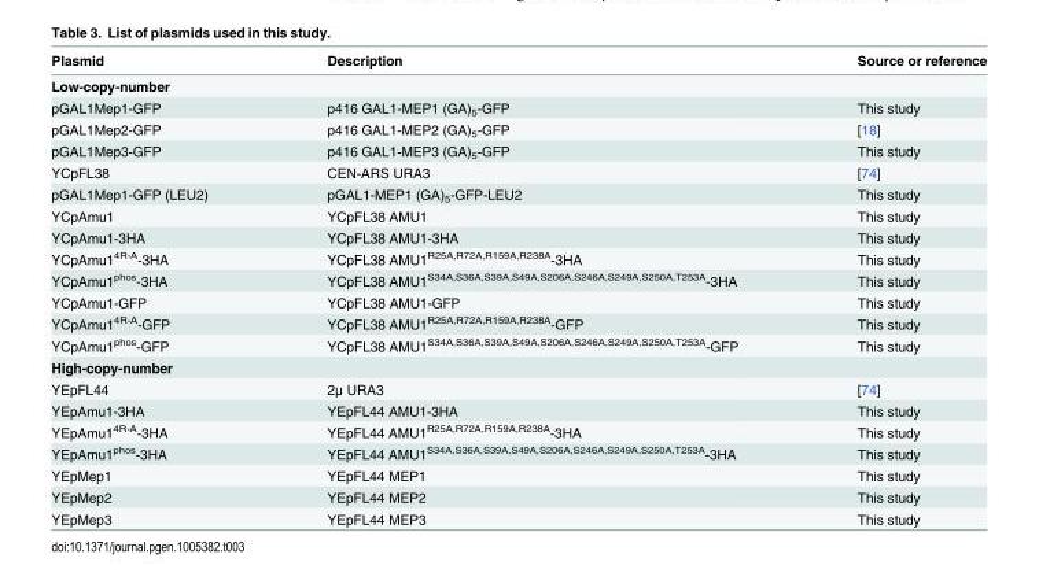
<table><thead><tr><td>Plasmid</td><td>Description</td><td>Source or reference</td></tr></thead><tbody><tr><td colspan="3">Low-copy-number</td></tr><tr><td>pGAL1Mep1-GFP</td><td>p416 GAL1-MEP1 (GA)<sub>5</sub>-GFP</td><td>This study</td></tr><tr><td>pGAL1Mep2-GFP</td><td>p416 GAL1-MEP2 (GA)<sub>5</sub>-GFP</td><td>[18]</td></tr><tr><td>pGAL1Mep3-GFP</td><td>p416 GAL1-MEP3 (GA)<sub>5</sub>-GFP</td><td>This study</td></tr><tr><td>YCpFL38</td><td>CEN-ARS URA3</td><td>[74]</td></tr><tr><td>pGAL1Mep1-GFP (LEU2)</td><td>pGAL1-MEP1 (GA)<sub>5</sub>-GFP-LEU2</td><td>This study</td></tr><tr><td>YCpAmu1</td><td>YCpFL38 AMU1</td><td>This study</td></tr><tr><td>YCpAmu1-3HA</td><td>YCpFL38 AMU1-3HA</td><td>This study</td></tr><tr><td>YCpAmu1<sup>4R-A</sup>-3HA</td><td>YCpFL38 AMU1<sup>R25A,R72A,R159A,R238A</sup>-3HA</td><td>This study</td></tr><tr><td>YCpAmu1<sup>phos</sup>-3HA</td><td>YCpFL38 AMU1<sup>S34A,S36A,S39A,S49A,S206A,S246A,S249A,S250A,T253A</sup>-3HA</td><td>This study</td></tr><tr><td>YCpAmu1-GFP</td><td>YCpFL38 AMU1-GFP</td><td>This study</td></tr><tr><td>YCpAmu1<sup>4R-A</sup>-GFP</td><td>YCpFL38 AMU1<sup>R25A,R72A,R159A,R238A</sup>-GFP</td><td>This study</td></tr><tr><td>YCpAmu1<sup>phos</sup>-GFP</td><td>YCpFL38 AMU1<sup>S34A,S36A,S39A,S49A,S206A,S246A,S249A,S250A,T253A</sup>-GFP</td><td>This study</td></tr><tr><td colspan="3">High-copy-number</td></tr><tr><td>YEpFL44</td><td>2μ URA3</td><td>[74]</td></tr><tr><td>YEpAmu1-3HA</td><td>YEpFL44 AMU1-3HA</td><td>This study</td></tr><tr><td>YEpAmu1<sup>4R-A</sup>-3HA</td><td>YEpFL44 AMU1<sup>R25A,R72A,R159A,R238A</sup>-3HA</td><td>This study</td></tr><tr><td>YEpAmu1<sup>phos</sup>-3HA</td><td>YEpFL44 AMU1<sup>S34A,S36A,S39A,S49A,S206A,S246A,S249A,S250A,T253A</sup>-3HA</td><td>This study</td></tr><tr><td>YEpMep1</td><td>YEpFL44 MEP1</td><td>This study</td></tr><tr><td>YEpMep2</td><td>YEpFL44 MEP2</td><td>This study</td></tr><tr><td>YEpMep3</td><td>YEpFL44 MEP3</td><td>This study</td></tr></tbody></table>